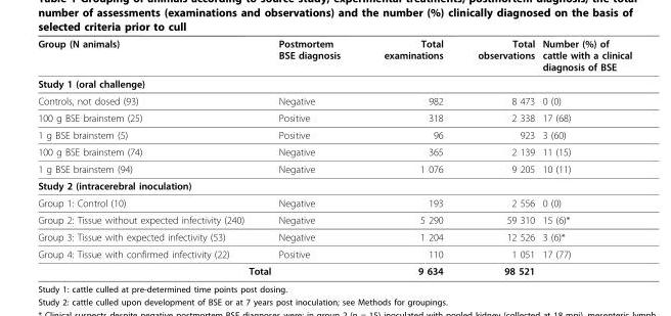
<table><thead><tr><td>Group (N animals)</td><td>Postmortem BSE diagnosis</td><td>Total examinations</td><td>Total observations</td><td>Number (%) of cattle with a clinical diagnosis of BSE</td></tr></thead><tbody><tr><td colspan="5">Study 1 (oral challenge)</td></tr><tr><td>Controls, not dosed (93)</td><td>Negative</td><td>982</td><td>8 473</td><td>0 (0)</td></tr><tr><td>100 g BSE brainstem (25)</td><td>Positive</td><td>318</td><td>2 338</td><td>17 (68)</td></tr><tr><td>1 g BSE brainstem (5)</td><td>Positive</td><td>96</td><td>923</td><td>3 (60)</td></tr><tr><td>100 g BSE brainstem (74)</td><td>Negative</td><td>365</td><td>2 139</td><td>11 (15)</td></tr><tr><td>1 g BSE brainstem (94)</td><td>Negative</td><td>1 076</td><td>9 205</td><td>10 (11)</td></tr><tr><td colspan="5">Study 2 (intracerebral inoculation)</td></tr><tr><td>Group 1: Control (10)</td><td>Negative</td><td>193</td><td>2 556</td><td>0 (0)</td></tr><tr><td>Group 2: Tissue without expected infectivity (240)</td><td>Negative</td><td>5 290</td><td>59 310</td><td>15 (6)*</td></tr><tr><td>Group 3: Tissue with expected infectivity (53)</td><td>Negative</td><td>1 204</td><td>12 526</td><td>3 (6)*</td></tr><tr><td>Group 4: Tissue with confirmed infectivity (22)</td><td>Positive</td><td>110</td><td>1 051</td><td>17 (77)</td></tr><tr><td>Total</td><td></td><td>9 634</td><td>98 521</td><td></td></tr></tbody></table>